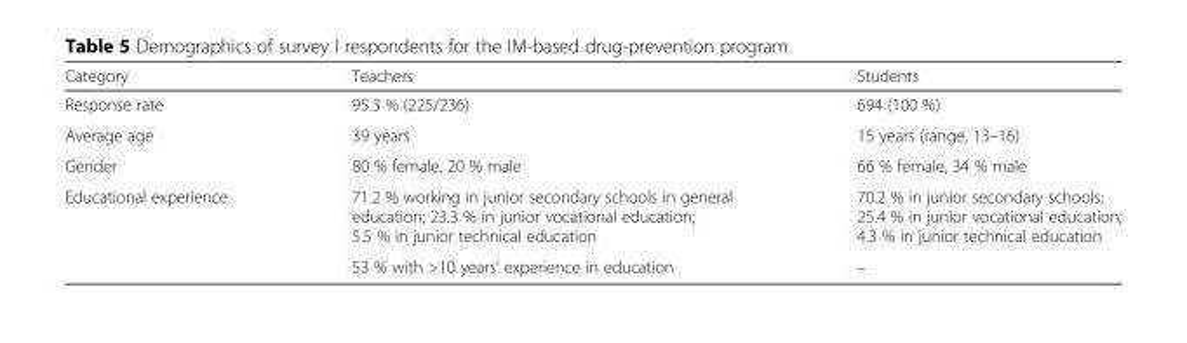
<table><thead><tr><td>Category</td><td>Teachers</td><td>Students</td></tr></thead><tbody><tr><td>Response rate</td><td>95.3 % (225/236)</td><td>694 (100 %)</td></tr><tr><td>Average age</td><td>39 years</td><td>15 years (range, 13–16)</td></tr><tr><td>Gender</td><td>80 % female, 20 % male</td><td>66 % female, 34 % male</td></tr><tr><td rowspan="2">Educational experience</td><td>71.2 % working in junior secondary schools in general education; 23.3 % in junior vocational education; 5.5 % in junior technical education</td><td>70.2 % in junior secondary schools; 25.4 % in junior vocational education; 4.3 % in junior technical education</td></tr><tr><td>53 % with &gt;10 years’ experience in education</td><td>–</td></tr></tbody></table>